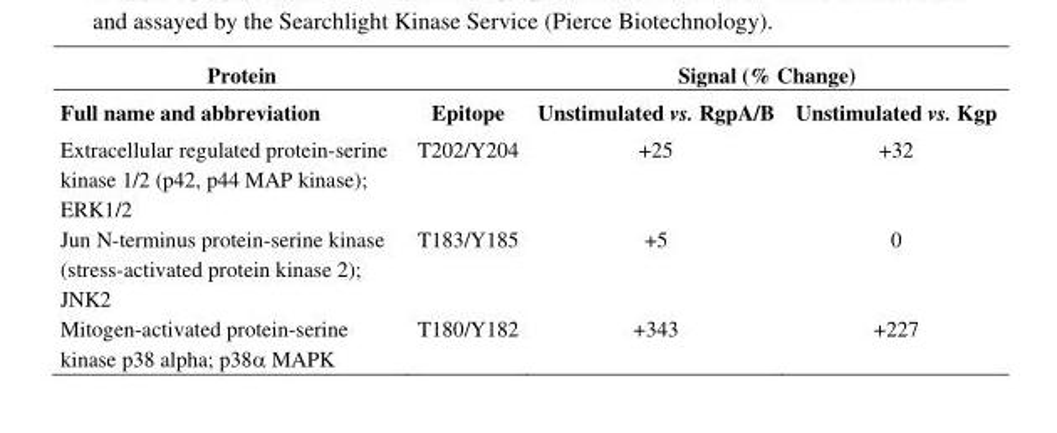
<table><thead><tr><td rowspan="2">Protein Full name and abbreviation</td><td colspan="3">Signal (% Change)</td></tr><tr><td>Epitope</td><td>Unstimulated vs. RgpA/B</td><td>Unstimulated vs. Kgp</td></tr></thead><tbody><tr><td>Extracellular regulated protein-serine kinase 1/2 (p42, p44 MAP kinase); ERK1/2</td><td>T202/Y204</td><td>+25</td><td>+32</td></tr><tr><td>Jun N-terminus protein-serine kinase (stress-activated protein kinase 2); JNK2</td><td>T183/Y185</td><td>+5</td><td>0</td></tr><tr><td>Mitogen-activated protein-serine kinase p38 alpha; p38α MAPK</td><td>T180/Y182</td><td>+343</td><td>+227</td></tr></tbody></table>